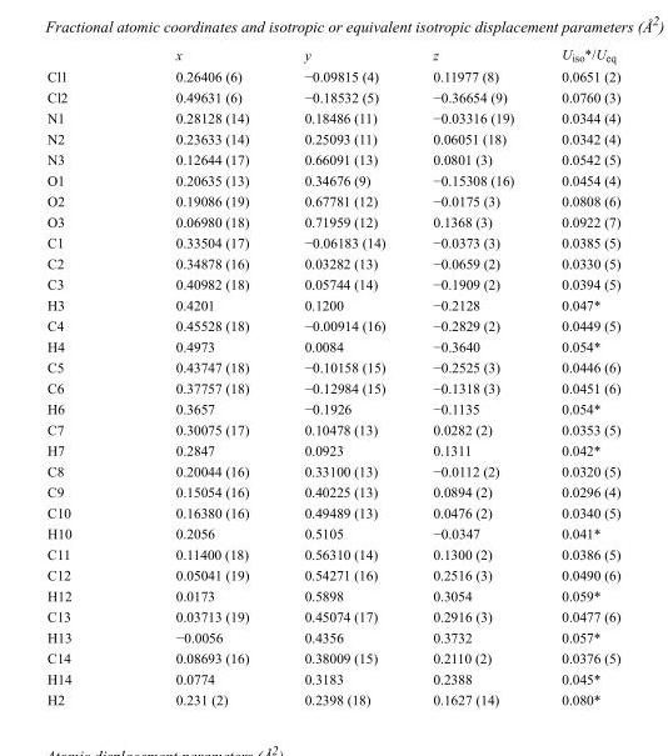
<table><thead><tr><td></td><td>x</td><td>y</td><td>z</td><td>U<sub>iso</sub>*/U<sub>eq</sub></td></tr></thead><tbody><tr><td>Cl1</td><td>0.26406 (6)</td><td>−0.09815 (4)</td><td>0.11977 (8)</td><td>0.0651 (2)</td></tr><tr><td>Cl2</td><td>0.49631 (6)</td><td>−0.18532 (5)</td><td>−0.36654 (9)</td><td>0.0760 (3)</td></tr><tr><td>N1</td><td>0.28128 (14)</td><td>0.18486 (11)</td><td>−0.03316 (19)</td><td>0.0344 (4)</td></tr><tr><td>N2</td><td>0.23633 (14)</td><td>0.25093 (11)</td><td>0.06051 (18)</td><td>0.0342 (4)</td></tr><tr><td>N3</td><td>0.12644 (17)</td><td>0.66091 (13)</td><td>0.0801 (3)</td><td>0.0542 (5)</td></tr><tr><td>O1</td><td>0.20635 (13)</td><td>0.34676 (9)</td><td>−0.15308 (16)</td><td>0.0454 (4)</td></tr><tr><td>O2</td><td>0.19086 (19)</td><td>0.67781 (12)</td><td>−0.0175 (3)</td><td>0.0808 (6)</td></tr><tr><td>O3</td><td>0.06980 (18)</td><td>0.71959 (12)</td><td>0.1368 (3)</td><td>0.0922 (7)</td></tr><tr><td>C1</td><td>0.33504 (17)</td><td>−0.06183 (14)</td><td>−0.0373 (3)</td><td>0.0385 (5)</td></tr><tr><td>C2</td><td>0.34878 (16)</td><td>0.03282 (13)</td><td>−0.0659 (2)</td><td>0.0330 (5)</td></tr><tr><td>C3</td><td>0.40982 (18)</td><td>0.05744 (14)</td><td>−0.1909 (2)</td><td>0.0394 (5)</td></tr><tr><td>H3</td><td>0.4201</td><td>0.1200</td><td>−0.2128</td><td>0.047*</td></tr><tr><td>C4</td><td>0.45528 (18)</td><td>−0.00914 (16)</td><td>−0.2829 (2)</td><td>0.0449 (5)</td></tr><tr><td>H4</td><td>0.4973</td><td>0.0084</td><td>−0.3640</td><td>0.054*</td></tr><tr><td>C5</td><td>0.43747 (18)</td><td>−0.10158 (15)</td><td>−0.2525 (3)</td><td>0.0446 (6)</td></tr><tr><td>C6</td><td>0.37757 (18)</td><td>−0.12984 (15)</td><td>−0.1318 (3)</td><td>0.0451 (6)</td></tr><tr><td>H6</td><td>0.3657</td><td>−0.1926</td><td>−0.1135</td><td>0.054*</td></tr><tr><td>C7</td><td>0.30075 (17)</td><td>0.10478 (13)</td><td>0.0282 (2)</td><td>0.0353 (5)</td></tr><tr><td>H7</td><td>0.2847</td><td>0.0923</td><td>0.1311</td><td>0.042*</td></tr><tr><td>C8</td><td>0.20044 (16)</td><td>0.33100 (13)</td><td>−0.0112 (2)</td><td>0.0320 (5)</td></tr><tr><td>C9</td><td>0.15054 (16)</td><td>0.40225 (13)</td><td>0.0894 (2)</td><td>0.0296 (4)</td></tr><tr><td>C10</td><td>0.16380 (16)</td><td>0.49489 (13)</td><td>0.0476 (2)</td><td>0.0340 (5)</td></tr><tr><td>H10</td><td>0.2056</td><td>0.5105</td><td>−0.0347</td><td>0.041*</td></tr><tr><td>C11</td><td>0.11400 (18)</td><td>0.56310 (14)</td><td>0.1300 (2)</td><td>0.0386 (5)</td></tr><tr><td>C12</td><td>0.05041 (19)</td><td>0.54271 (16)</td><td>0.2516 (3)</td><td>0.0490 (6)</td></tr><tr><td>H12</td><td>0.0173</td><td>0.5898</td><td>0.3054</td><td>0.059*</td></tr><tr><td>C13</td><td>0.03713 (19)</td><td>0.45074 (17)</td><td>0.2916 (3)</td><td>0.0477 (6)</td></tr><tr><td>H13</td><td>−0.0056</td><td>0.4356</td><td>0.3732</td><td>0.057*</td></tr><tr><td>C14</td><td>0.08693 (16)</td><td>0.38009 (15)</td><td>0.2110 (2)</td><td>0.0376 (5)</td></tr><tr><td>H14</td><td>0.0774</td><td>0.3183</td><td>0.2388</td><td>0.045*</td></tr><tr><td>H2</td><td>0.231 (2)</td><td>0.2398 (18)</td><td>0.1627 (14)</td><td>0.080*</td></tr></tbody></table>